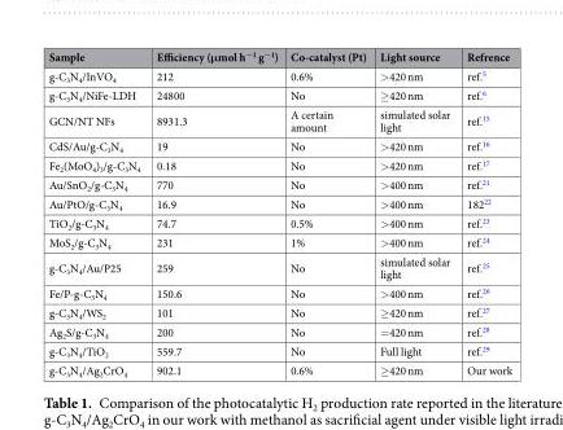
<table><thead><tr><td>Sample</td><td>Efficiency (μmol h<sup>−1</sup> g<sup>−1</sup>)</td><td>Co-catalyst (Pt)</td><td>Light source</td><td>Refrence</td></tr></thead><tbody><tr><td>g-C<sub>3</sub>N<sub>4</sub>/InVO<sub>4</sub></td><td>212</td><td>0.6%</td><td>&gt;420 nm</td><td>ref.<sup>5</sup></td></tr><tr><td>g-C<sub>3</sub>N<sub>4</sub>/NiFe-LDH</td><td>24800</td><td>No</td><td>≥420 nm</td><td>ref.<sup>6</sup></td></tr><tr><td>GCN/NT NFs</td><td>8931.3</td><td>A certain amount</td><td>simulated solar light</td><td>ref.<sup>15</sup></td></tr><tr><td>CdS/Au/g-C<sub>3</sub>N<sub>4</sub></td><td>19</td><td>No</td><td>&gt;420 nm</td><td>ref.<sup>16</sup></td></tr><tr><td>Fe<sub>2</sub>(MoO<sub>4</sub>)<sub>3</sub>/g-C<sub>3</sub>N<sub>4</sub></td><td>0.18</td><td>No</td><td>&gt;420 nm</td><td>ref.<sup>17</sup></td></tr><tr><td>Au/SnO<sub>2</sub>/g-C<sub>3</sub>N<sub>4</sub></td><td>770</td><td>No</td><td>&gt;400 nm</td><td>ref.<sup>21</sup></td></tr><tr><td>Au/PtO/g-C<sub>3</sub>N<sub>4</sub></td><td>16.9</td><td>No</td><td>&gt;400 nm</td><td>182<sup>22</sup></td></tr><tr><td>TiO<sub>2</sub>/g-C<sub>3</sub>N<sub>4</sub></td><td>74.7</td><td>0.5%</td><td>&gt;400 nm</td><td>ref.<sup>23</sup></td></tr><tr><td>MoS<sub>2</sub>/g-C<sub>3</sub>N<sub>4</sub></td><td>231</td><td>1%</td><td>&gt;400 nm</td><td>ref.<sup>24</sup></td></tr><tr><td>g-C<sub>3</sub>N<sub>4</sub>/Au/P25</td><td>259</td><td>No</td><td>simulated solar light</td><td>ref.<sup>25</sup></td></tr><tr><td>Fe/P-g-C<sub>3</sub>N<sub>4</sub></td><td>150.6</td><td>No</td><td>&gt;400 nm</td><td>ref.<sup>26</sup></td></tr><tr><td>g-C<sub>3</sub>N<sub>4</sub>/WS<sub>2</sub></td><td>101</td><td>No</td><td>≥420 nm</td><td>ref.<sup>27</sup></td></tr><tr><td>Ag<sub>2</sub>S/g-C<sub>3</sub>N<sub>4</sub></td><td>200</td><td>No</td><td>=420 nm</td><td>ref.<sup>28</sup></td></tr><tr><td>g-C<sub>3</sub>N<sub>4</sub>/TiO<sub>2</sub></td><td>559.7</td><td>No</td><td>Full light</td><td>ref.<sup>29</sup></td></tr><tr><td>g-C<sub>3</sub>N<sub>4</sub>/Ag<sub>2</sub>CrO<sub>4</sub></td><td>902.1</td><td>0.6%</td><td>≥420 nm</td><td>Our work</td></tr></tbody></table>